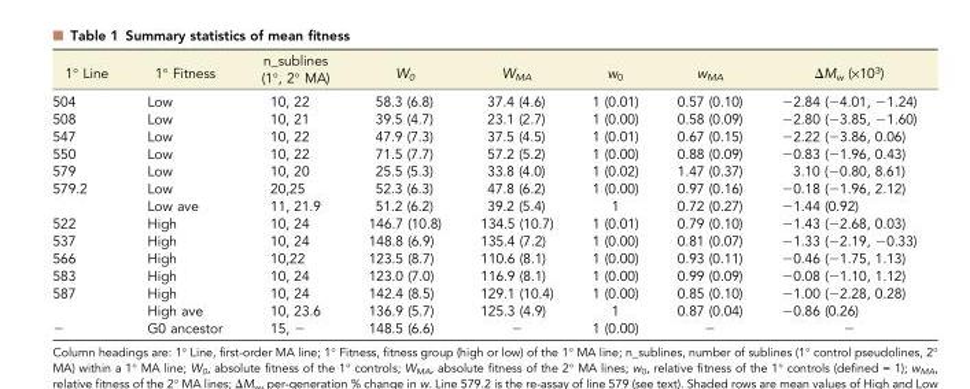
<table><thead><tr><td>1° Line</td><td>1° Fitness</td><td>n_sublines (1°, 2° MA)</td><td>W<sub>0</sub></td><td>W<sub>MA</sub></td><td>w<sub>0</sub></td><td>w<sub>MA</sub></td><td>ΔM<sub>w</sub> (×10<sup>3</sup>)</td></tr></thead><tbody><tr><td>504</td><td>Low</td><td>10, 22</td><td>58.3 (6.8)</td><td>37.4 (4.6)</td><td>1 (0.01)</td><td>0.57 (0.10)</td><td>−2.84 (−4.01, −1.24)</td></tr><tr><td>508</td><td>Low</td><td>10, 21</td><td>39.5 (4.7)</td><td>23.1 (2.7)</td><td>1 (0.00)</td><td>0.58 (0.09)</td><td>−2.80 (−3.85, −1.60)</td></tr><tr><td>547</td><td>Low</td><td>10, 22</td><td>47.9 (7.3)</td><td>37.5 (4.5)</td><td>1 (0.01)</td><td>0.67 (0.15)</td><td>−2.22 (−3.86, 0.06)</td></tr><tr><td>550</td><td>Low</td><td>10, 22</td><td>71.5 (7.7)</td><td>57.2 (5.2)</td><td>1 (0.00)</td><td>0.88 (0.09)</td><td>−0.83 (−1.96, 0.43)</td></tr><tr><td>579</td><td>Low</td><td>10, 20</td><td>25.5 (5.3)</td><td>33.8 (4.0)</td><td>1 (0.02)</td><td>1.47 (0.37)</td><td>3.10 (−0.80, 8.61)</td></tr><tr><td rowspan="2">579.2</td><td>Low</td><td>20,25</td><td>52.3 (6.3)</td><td>47.8 (6.2)</td><td>1 (0.00)</td><td>0.97 (0.16)</td><td>−0.18 (−1.96, 2.12)</td></tr><tr><td>Low ave</td><td>11, 21.9</td><td>51.2 (6.2)</td><td>39.2 (5.4)</td><td>1</td><td>0.72 (0.27)</td><td>−1.44 (0.92)</td></tr><tr><td>522</td><td>High</td><td>10, 24</td><td>146.7 (10.8)</td><td>134.5 (10.7)</td><td>1 (0.01)</td><td>0.79 (0.10)</td><td>−1.43 (−2.68, 0.03)</td></tr><tr><td>537</td><td>High</td><td>10, 24</td><td>148.8 (6.9)</td><td>135.4 (7.2)</td><td>1 (0.00)</td><td>0.81 (0.07)</td><td>−1.33 (−2.19, −0.33)</td></tr><tr><td>566</td><td>High</td><td>10,22</td><td>123.5 (8.7)</td><td>110.6 (8.1)</td><td>1 (0.00)</td><td>0.93 (0.11)</td><td>−0.46 (−1.75, 1.13)</td></tr><tr><td>583</td><td>High</td><td>10, 24</td><td>123.0 (7.0)</td><td>116.9 (8.1)</td><td>1 (0.00)</td><td>0.99 (0.09)</td><td>−0.08 (−1.10, 1.12)</td></tr><tr><td rowspan="2">587</td><td>High</td><td>10, 24</td><td>142.4 (8.5)</td><td>129.1 (10.4)</td><td>1 (0.00)</td><td>0.85 (0.10)</td><td>−1.00 (−2.28, 0.28)</td></tr><tr><td>High ave</td><td>10, 23.6</td><td>136.9 (5.7)</td><td>125.3 (4.9)</td><td>1</td><td>0.87 (0.04)</td><td>−0.86 (0.26)</td></tr><tr><td>−</td><td>G0 ancestor</td><td>15, −</td><td>148.5 (6.6)</td><td>−</td><td>1 (0.00)</td><td>−</td><td>−</td></tr></tbody></table>